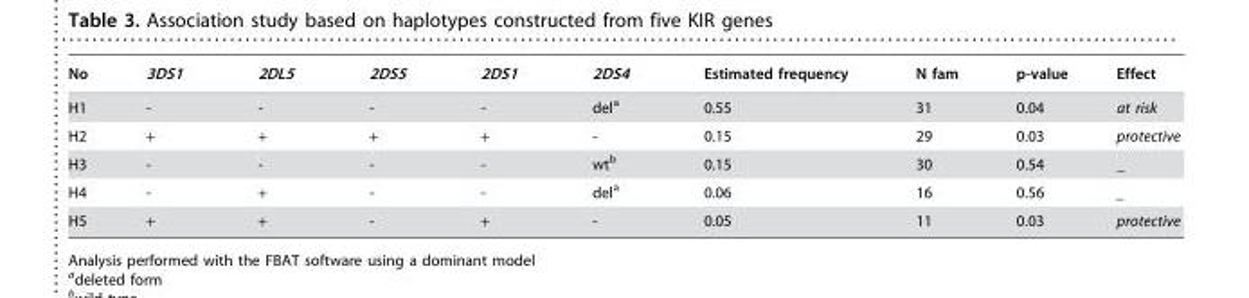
<table><thead><tr><td>No</td><td>3DS1</td><td>2DL5</td><td>2DS5</td><td>2DS1</td><td>2DS4</td><td>Estimated frequency</td><td>N fam</td><td>p-value</td><td>Effect</td></tr></thead><tbody><tr><td>H1</td><td>-</td><td>-</td><td>-</td><td>-</td><td>del<sup>a</sup></td><td>0.55</td><td>31</td><td>0.04</td><td>at risk</td></tr><tr><td>H2</td><td>+</td><td>+</td><td>+</td><td>+</td><td>-</td><td>0.15</td><td>29</td><td>0.03</td><td>protective</td></tr><tr><td>H3</td><td>-</td><td>-</td><td>-</td><td>-</td><td>wt<sup>b</sup></td><td>0.15</td><td>30</td><td>0.54</td><td>_</td></tr><tr><td>H4</td><td>-</td><td>+</td><td>-</td><td>-</td><td>del<sup>a</sup></td><td>0.06</td><td>16</td><td>0.56</td><td>_</td></tr><tr><td>H5</td><td>+</td><td>+</td><td>-</td><td>+</td><td>-</td><td>0.05</td><td>11</td><td>0.03</td><td>protective</td></tr></tbody></table>